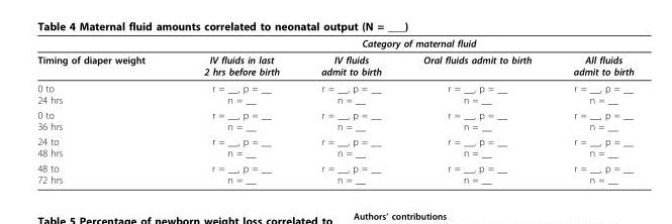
<table><thead><tr><td rowspan="2">Timing of diaper weight</td><td colspan="4">Category of maternal fluid</td></tr><tr><td>IV fluids in last 2 hrs before birth</td><td>IV fluids admit to birth</td><td>Oral fluids admit to birth</td><td>All fluids admit to birth</td></tr></thead><tbody><tr><td>0 to 24 hrs</td><td>r = __, p = __ n = __</td><td>r = __, p = __ n = __</td><td>r = __, p = __ n = __</td><td>r = __, p = __ n = __</td></tr><tr><td>0 to 36 hrs</td><td>r = __, p = __ n = __</td><td>r = __, p = __ n = __</td><td>r = __, p = __ n = __</td><td>r = __, p = __ n = __</td></tr><tr><td>24 to 48 hrs</td><td>r = __, p = __ n = __</td><td>r = __, p = __ n = __</td><td>r = __, p = __ n = __</td><td>r = __, p = __ n = __</td></tr><tr><td>48 to 72 hrs</td><td>r = __, p = __ n = __</td><td>r = __, p = __ n = __</td><td>r = __, p = __ n = __</td><td>r = __, p = __ n = __</td></tr></tbody></table>